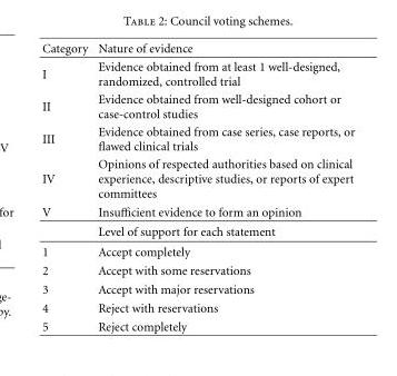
<table><thead><tr><td>Category</td><td>Nature of evidence</td></tr></thead><tbody><tr><td>I</td><td>Evidence obtained from at least 1 well-designed, randomized, controlled trial</td></tr><tr><td>II</td><td>Evidence obtained from well-designed cohort or case-control studies</td></tr><tr><td>III</td><td>Evidence obtained from case series, case reports, or flawed clinical trials</td></tr><tr><td>IV</td><td>Opinions of respected authorities based on clinical experience, descriptive studies, or reports of expert committees</td></tr><tr><td rowspan="2">V</td><td>Insufficient evidence to form an opinion</td></tr><tr><td>Level of support for each statement</td></tr><tr><td>1</td><td>Accept completely</td></tr><tr><td>2</td><td>Accept with some reservations</td></tr><tr><td>3</td><td>Accept with major reservations</td></tr><tr><td>4</td><td>Reject with reservations</td></tr><tr><td>5</td><td>Reject completely</td></tr></tbody></table>